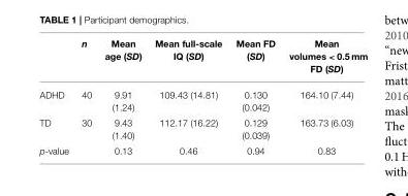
<table><thead><tr><td></td><td>n</td><td>Mean age (SD)</td><td>Mean full-scale IQ (SD)</td><td>Mean FD (SD)</td><td>Mean volumes &lt; 0.5 mm FD (SD)</td></tr></thead><tbody><tr><td>ADHD</td><td>40</td><td>9.91 (1.24)</td><td>109.43 (14.81)</td><td>0.130 (0.042)</td><td>164.10 (7.44)</td></tr><tr><td>TD</td><td>30</td><td>9.43 (1.40)</td><td>112.17 (16.22)</td><td>0.129 (0.039)</td><td>163.73 (6.03)</td></tr><tr><td>p-value</td><td></td><td>0.13</td><td>0.46</td><td>0.94</td><td>0.83</td></tr></tbody></table>